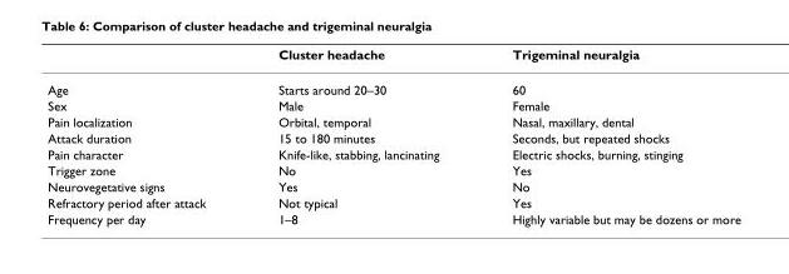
<table><thead><tr><td></td><td>Cluster headache</td><td>Trigeminal neuralgia</td></tr></thead><tbody><tr><td>Age</td><td>Starts around 20–30</td><td>60</td></tr><tr><td>Sex</td><td>Male</td><td>Female</td></tr><tr><td>Pain localization</td><td>Orbital, temporal</td><td>Nasal, maxillary, dental</td></tr><tr><td>Attack duration</td><td>15 to 180 minutes</td><td>Seconds, but repeated shocks</td></tr><tr><td>Pain character</td><td>Knife-like, stabbing, lancinating</td><td>Electric shocks, burning, stinging</td></tr><tr><td>Trigger zone</td><td>No</td><td>Yes</td></tr><tr><td>Neurovegetative signs</td><td>Yes</td><td>No</td></tr><tr><td>Refractory period after attack</td><td>Not typical</td><td>Yes</td></tr><tr><td>Frequency per day</td><td>1–8</td><td>Highly variable but may be dozens or more</td></tr></tbody></table>